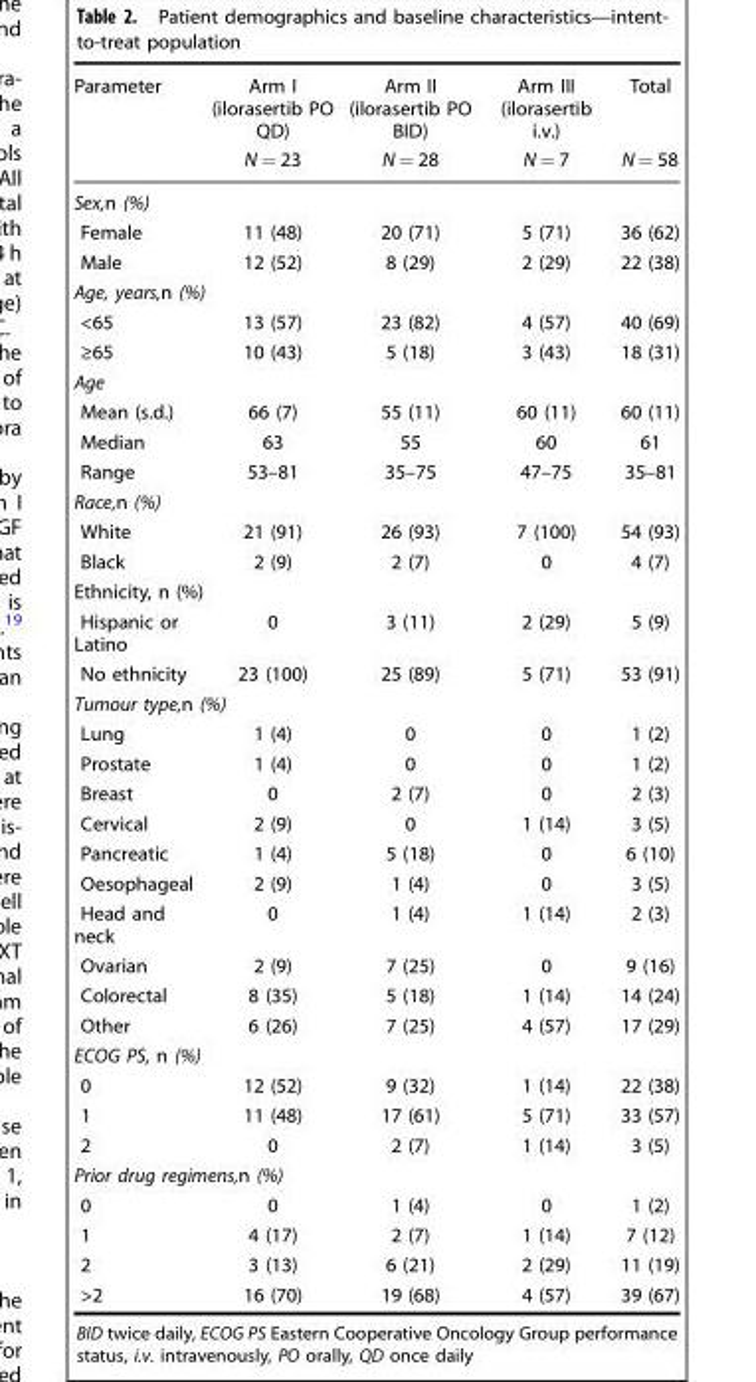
<table><thead><tr><td rowspan="2">Parameter</td><td rowspan="2">Arm I (ilorasertib PO QD) N = 23</td><td rowspan="2">Arm II (ilorasertib PO BID) N = 28</td><td rowspan="2">Arm III (ilorasertib i.v.) N = 7</td><td rowspan="2">Total N = 58</td></tr><tr></tr></thead><tbody><tr><td colspan="5">Sex,n (%)</td></tr><tr><td>Female</td><td>11 (48)</td><td>20 (71)</td><td>5 (71)</td><td>36 (62)</td></tr><tr><td>Male</td><td>12 (52)</td><td>8 (29)</td><td>2 (29)</td><td>22 (38)</td></tr><tr><td colspan="5">Age, years,n (%)</td></tr><tr><td>&lt;65</td><td>13 (57)</td><td>23 (82)</td><td>4 (57)</td><td>40 (69)</td></tr><tr><td>≥65</td><td>10 (43)</td><td>5 (18)</td><td>3 (43)</td><td>18 (31)</td></tr><tr><td colspan="5">Age</td></tr><tr><td>Mean (s.d.)</td><td>66 (7)</td><td>55 (11)</td><td>60 (11)</td><td>60 (11)</td></tr><tr><td>Median</td><td>63</td><td>55</td><td>60</td><td>61</td></tr><tr><td>Range</td><td>53–81</td><td>35–75</td><td>47–75</td><td>35–81</td></tr><tr><td colspan="5">Race,n (%)</td></tr><tr><td>White</td><td>21 (91)</td><td>26 (93)</td><td>7 (100)</td><td>54 (93)</td></tr><tr><td>Black</td><td>2 (9)</td><td>2 (7)</td><td>0</td><td>4 (7)</td></tr><tr><td colspan="5">Ethnicity, n (%)</td></tr><tr><td>Hispanic or Latino</td><td>0</td><td>3 (11)</td><td>2 (29)</td><td>5 (9)</td></tr><tr><td>No ethnicity</td><td>23 (100)</td><td>25 (89)</td><td>5 (71)</td><td>53 (91)</td></tr><tr><td colspan="5">Tumour type,n (%)</td></tr><tr><td>Lung</td><td>1 (4)</td><td>0</td><td>0</td><td>1 (2)</td></tr><tr><td>Prostate</td><td>1 (4)</td><td>0</td><td>0</td><td>1 (2)</td></tr><tr><td>Breast</td><td>0</td><td>2 (7)</td><td>0</td><td>2 (3)</td></tr><tr><td>Cervical</td><td>2 (9)</td><td>0</td><td>1 (14)</td><td>3 (5)</td></tr><tr><td>Pancreatic</td><td>1 (4)</td><td>5 (18)</td><td>0</td><td>6 (10)</td></tr><tr><td>Oesophageal</td><td>2 (9)</td><td>1 (4)</td><td>0</td><td>3 (5)</td></tr><tr><td>Head and neck</td><td>0</td><td>1 (4)</td><td>1 (14)</td><td>2 (3)</td></tr><tr><td>Ovarian</td><td>2 (9)</td><td>7 (25)</td><td>0</td><td>9 (16)</td></tr><tr><td>Colorectal</td><td>8 (35)</td><td>5 (18)</td><td>1 (14)</td><td>14 (24)</td></tr><tr><td>Other</td><td>6 (26)</td><td>7 (25)</td><td>4 (57)</td><td>17 (29)</td></tr><tr><td colspan="5">ECOG PS, n (%)</td></tr><tr><td>0</td><td>12 (52)</td><td>9 (32)</td><td>1 (14)</td><td>22 (38)</td></tr><tr><td>1</td><td>11 (48)</td><td>17 (61)</td><td>5 (71)</td><td>33 (57)</td></tr><tr><td>2</td><td>0</td><td>2 (7)</td><td>1 (14)</td><td>3 (5)</td></tr><tr><td colspan="5">Prior drug regimens,n (%)</td></tr><tr><td>0</td><td>0</td><td>1 (4)</td><td>0</td><td>1 (2)</td></tr><tr><td>1</td><td>4 (17)</td><td>2 (7)</td><td>1 (14)</td><td>7 (12)</td></tr><tr><td>2</td><td>3 (13)</td><td>6 (21)</td><td>2 (29)</td><td>11 (19)</td></tr><tr><td>&gt;2</td><td>16 (70)</td><td>19 (68)</td><td>4 (57)</td><td>39 (67)</td></tr></tbody></table>